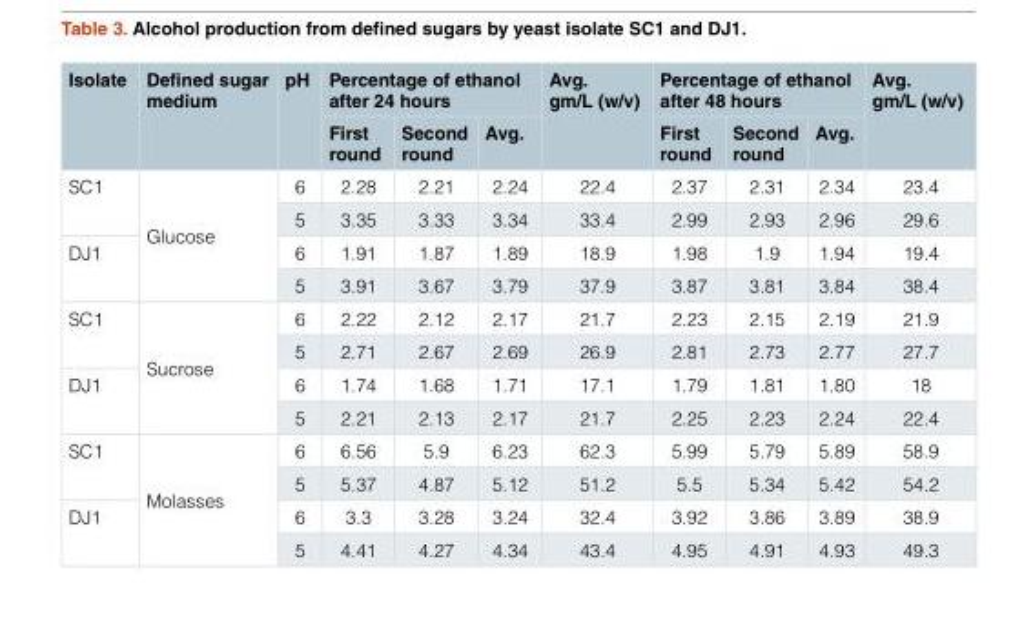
<table><thead><tr><td rowspan="2">Isolate</td><td rowspan="2">Defined sugar medium</td><td rowspan="2">pH</td><td colspan="3">Percentage of ethanol after 24 hours</td><td rowspan="2">Avg. gm/L (w/v)</td><td colspan="3">Percentage of ethanol after 48 hours</td><td rowspan="2">Avg. gm/L (w/v)</td></tr><tr><td>First round</td><td>Second round</td><td>Avg.</td><td>First round</td><td>Second round</td><td>Avg.</td></tr></thead><tbody><tr><td rowspan="2">SC1</td><td rowspan="4">Glucose</td><td>6</td><td>2.28</td><td>2.21</td><td>2.24</td><td>22.4</td><td>2.37</td><td>2.31</td><td>2.34</td><td>23.4</td></tr><tr><td>5</td><td>3.35</td><td>3.33</td><td>3.34</td><td>33.4</td><td>2.99</td><td>2.93</td><td>2.96</td><td>29.6</td></tr><tr><td rowspan="2">DJ1</td><td>6</td><td>1.91</td><td>1.87</td><td>1.89</td><td>18.9</td><td>1.98</td><td>1.9</td><td>1.94</td><td>19.4</td></tr><tr><td>5</td><td>3.91</td><td>3.67</td><td>3.79</td><td>37.9</td><td>3.87</td><td>3.81</td><td>3.84</td><td>38.4</td></tr><tr><td rowspan="2">SC1</td><td rowspan="4">Sucrose</td><td>6</td><td>2.22</td><td>2.12</td><td>2.17</td><td>21.7</td><td>2.23</td><td>2.15</td><td>2.19</td><td>21.9</td></tr><tr><td>5</td><td>2.71</td><td>2.67</td><td>2.69</td><td>26.9</td><td>2.81</td><td>2.73</td><td>2.77</td><td>27.7</td></tr><tr><td rowspan="2">DJ1</td><td>6</td><td>1.74</td><td>1.68</td><td>1.71</td><td>17.1</td><td>1.79</td><td>1.81</td><td>1.80</td><td>18</td></tr><tr><td>5</td><td>2.21</td><td>2.13</td><td>2.17</td><td>21.7</td><td>2.25</td><td>2.23</td><td>2.24</td><td>22.4</td></tr><tr><td rowspan="2">SC1</td><td rowspan="4">Molasses</td><td>6</td><td>6.56</td><td>5.9</td><td>6.23</td><td>62.3</td><td>5.99</td><td>5.79</td><td>5.89</td><td>58.9</td></tr><tr><td>5</td><td>5.37</td><td>4.87</td><td>5.12</td><td>51.2</td><td>5.5</td><td>5.34</td><td>5.42</td><td>54.2</td></tr><tr><td rowspan="2">DJ1</td><td>6</td><td>3.3</td><td>3.28</td><td>3.24</td><td>32.4</td><td>3.92</td><td>3.86</td><td>3.89</td><td>38.9</td></tr><tr><td>5</td><td>4.41</td><td>4.27</td><td>4.34</td><td>43.4</td><td>4.95</td><td>4.91</td><td>4.93</td><td>49.3</td></tr></tbody></table>